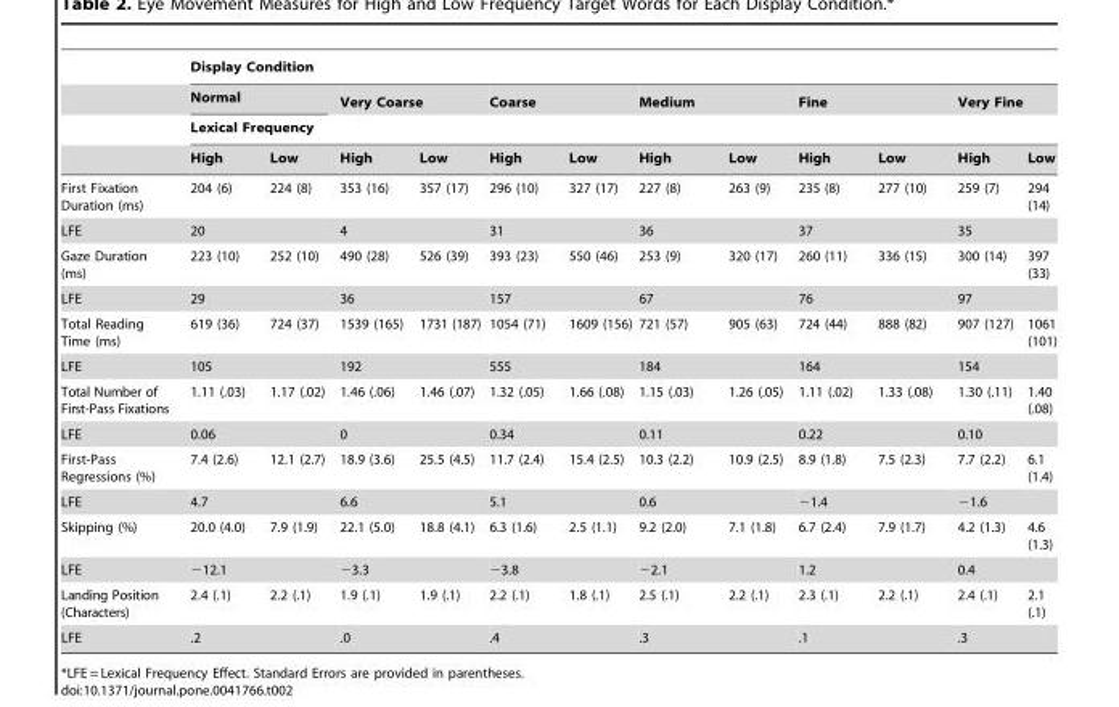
<table><thead><tr><td rowspan="4"></td><td colspan="12">Display Condition</td></tr><tr><td colspan="2">Normal</td><td colspan="2">Very Coarse</td><td colspan="2">Coarse</td><td colspan="2">Medium</td><td colspan="2">Fine</td><td colspan="2">Very Fine</td></tr><tr><td colspan="12">Lexical Frequency</td></tr><tr><td>High</td><td>Low</td><td>High</td><td>Low</td><td>High</td><td>Low</td><td>High</td><td>Low</td><td>High</td><td>Low</td><td>High</td><td>Low</td></tr></thead><tbody><tr><td>First Fixation Duration (ms)</td><td>204 (6)</td><td>224 (8)</td><td>353 (16)</td><td>357 (17)</td><td>296 (10)</td><td>327 (17)</td><td>227 (8)</td><td>263 (9)</td><td>235 (8)</td><td>277 (10)</td><td>259 (7)</td><td>294 (14)</td></tr><tr><td>LFE</td><td colspan="2">20</td><td colspan="2">4</td><td colspan="2">31</td><td colspan="2">36</td><td colspan="2">37</td><td colspan="2">35</td></tr><tr><td>Gaze Duration (ms)</td><td>223 (10)</td><td>252 (10)</td><td>490 (28)</td><td>526 (39)</td><td>393 (23)</td><td>550 (46)</td><td>253 (9)</td><td>320 (17)</td><td>260 (11)</td><td>336 (15)</td><td>300 (14)</td><td>397 (33)</td></tr><tr><td>LFE</td><td colspan="2">29</td><td colspan="2">36</td><td colspan="2">157</td><td colspan="2">67</td><td colspan="2">76</td><td colspan="2">97</td></tr><tr><td>Total Reading Time (ms)</td><td>619 (36)</td><td>724 (37)</td><td>1539 (165)</td><td>1731 (187)</td><td>1054 (71)</td><td>1609 (156)</td><td>721 (57)</td><td>905 (63)</td><td>724 (44)</td><td>888 (82)</td><td>907 (127)</td><td>1061 (101)</td></tr><tr><td>LFE</td><td colspan="2">105</td><td colspan="2">192</td><td colspan="2">555</td><td colspan="2">184</td><td colspan="2">164</td><td colspan="2">154</td></tr><tr><td>Total Number of First-Pass Fixations</td><td>1.11 (.03)</td><td>1.17 (.02)</td><td>1.46 (.06)</td><td>1.46 (.07)</td><td>1.32 (.05)</td><td>1.66 (.08)</td><td>1.15 (.03)</td><td>1.26 (.05)</td><td>1.11 (.02)</td><td>1.33 (.08)</td><td>1.30 (.11)</td><td>1.40 (.08)</td></tr><tr><td>LFE</td><td colspan="2">0.06</td><td colspan="2">0</td><td colspan="2">0.34</td><td colspan="2">0.11</td><td colspan="2">0.22</td><td colspan="2">0.10</td></tr><tr><td>First-Pass Regressions (%)</td><td>7.4 (2.6)</td><td>12.1 (2.7)</td><td>18.9 (3.6)</td><td>25.5 (4.5)</td><td>11.7 (2.4)</td><td>15.4 (2.5)</td><td>10.3 (2.2)</td><td>10.9 (2.5)</td><td>8.9 (1.8)</td><td>7.5 (2.3)</td><td>7.7 (2.2)</td><td>6.1 (1.4)</td></tr><tr><td>LFE</td><td colspan="2">4.7</td><td colspan="2">6.6</td><td colspan="2">5.1</td><td colspan="2">0.6</td><td colspan="2">−1.4</td><td colspan="2">−1.6</td></tr><tr><td>Skipping (%)</td><td>20.0 (4.0)</td><td>7.9 (1.9)</td><td>22.1 (5.0)</td><td>18.8 (4.1)</td><td>6.3 (1.6)</td><td>2.5 (1.1)</td><td>9.2 (2.0)</td><td>7.1 (1.8)</td><td>6.7 (2.4)</td><td>7.9 (1.7)</td><td>4.2 (1.3)</td><td>4.6 (1.3)</td></tr><tr><td>LFE</td><td colspan="2">−12.1</td><td colspan="2">−3.3</td><td colspan="2">−3.8</td><td colspan="2">−2.1</td><td colspan="2">1.2</td><td colspan="2">0.4</td></tr><tr><td>Landing Position (Characters)</td><td>2.4 (.1)</td><td>2.2 (.1)</td><td>1.9 (.1)</td><td>1.9 (.1)</td><td>2.2 (.1)</td><td>1.8 (.1)</td><td>2.5 (.1)</td><td>2.2 (.1)</td><td>2.3 (.1)</td><td>2.2 (.1)</td><td>2.4 (.1)</td><td>2.1 (.1)</td></tr><tr><td>LFE</td><td colspan="2">.2</td><td colspan="2">.0</td><td colspan="2">.4</td><td colspan="2">.3</td><td colspan="2">.1</td><td colspan="2">.3</td></tr></tbody></table>